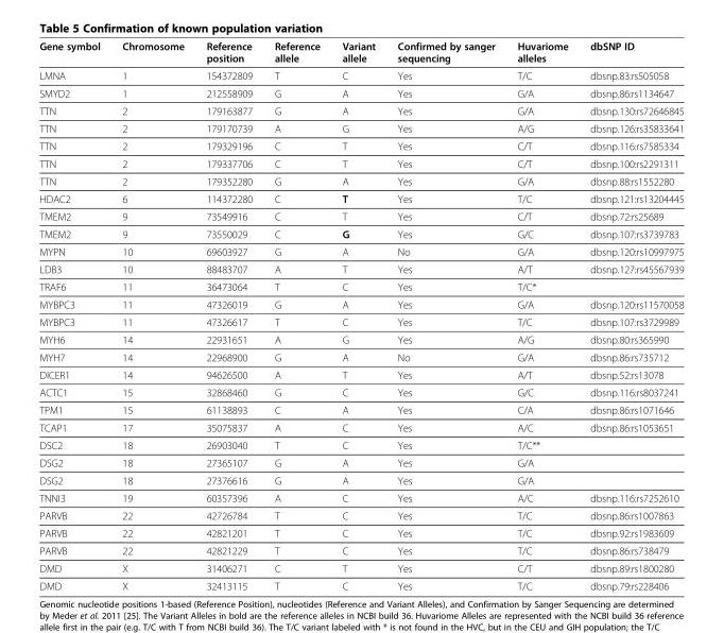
<table><thead><tr><td>Gene symbol</td><td>Chromosome</td><td>Reference position</td><td>Reference allele</td><td>Variant allele</td><td>Confirmed by sanger sequencing</td><td>Huvariome alleles</td><td>dbSNP ID</td></tr></thead><tbody><tr><td>LMNA</td><td>1</td><td>154372809</td><td>T</td><td>C</td><td>Yes</td><td>T/C</td><td>dbsnp.83:rs505058</td></tr><tr><td>SMYD2</td><td>1</td><td>212558909</td><td>G</td><td>A</td><td>Yes</td><td>G/A</td><td>dbsnp.86:rs1134647</td></tr><tr><td>TTN</td><td>2</td><td>179163877</td><td>G</td><td>A</td><td>Yes</td><td>G/A</td><td>dbsnp.130:rs72646845</td></tr><tr><td>TTN</td><td>2</td><td>179170739</td><td>A</td><td>G</td><td>Yes</td><td>A/G</td><td>dbsnp.126:rs35833641</td></tr><tr><td>TTN</td><td>2</td><td>179329196</td><td>C</td><td>T</td><td>Yes</td><td>C/T</td><td>dbsnp.116:rs7585334</td></tr><tr><td>TTN</td><td>2</td><td>179337706</td><td>C</td><td>T</td><td>Yes</td><td>C/T</td><td>dbsnp.100:rs2291311</td></tr><tr><td>TTN</td><td>2</td><td>179352280</td><td>G</td><td>A</td><td>Yes</td><td>G/A</td><td>dbsnp.88:rs1552280</td></tr><tr><td>HDAC2</td><td>6</td><td>114372280</td><td>C</td><td>T</td><td>Yes</td><td>T/C</td><td>dbsnp.121:rs13204445</td></tr><tr><td>TMEM2</td><td>9</td><td>73549916</td><td>C</td><td>T</td><td>Yes</td><td>C/T</td><td>dbsnp.72:rs25689</td></tr><tr><td>TMEM2</td><td>9</td><td>73550029</td><td>C</td><td>G</td><td>Yes</td><td>G/C</td><td>dbsnp.107:rs3739783</td></tr><tr><td>MYPN</td><td>10</td><td>69603927</td><td>G</td><td>A</td><td>No</td><td>G/A</td><td>dbsnp.120:rs10997975</td></tr><tr><td>LDB3</td><td>10</td><td>88483707</td><td>A</td><td>T</td><td>Yes</td><td>A/T</td><td>dbsnp.127:rs45567939</td></tr><tr><td>TRAF6</td><td>11</td><td>36473064</td><td>T</td><td>C</td><td>Yes</td><td>T/C*</td><td></td></tr><tr><td>MYBPC3</td><td>11</td><td>47326019</td><td>G</td><td>A</td><td>Yes</td><td>G/A</td><td>dbsnp.120:rs11570058</td></tr><tr><td>MYBPC3</td><td>11</td><td>47326617</td><td>T</td><td>C</td><td>Yes</td><td>T/C</td><td>dbsnp.107:rs3729989</td></tr><tr><td>MYH6</td><td>14</td><td>22931651</td><td>A</td><td>G</td><td>Yes</td><td>A/G</td><td>dbsnp.80:rs365990</td></tr><tr><td>MYH7</td><td>14</td><td>22968900</td><td>G</td><td>A</td><td>No</td><td>G/A</td><td>dbsnp.86:rs735712</td></tr><tr><td>DICER1</td><td>14</td><td>94626500</td><td>A</td><td>T</td><td>Yes</td><td>A/T</td><td>dbsnp.52:rs13078</td></tr><tr><td>ACTC1</td><td>15</td><td>32868460</td><td>G</td><td>C</td><td>Yes</td><td>G/C</td><td>dbsnp.116:rs8037241</td></tr><tr><td>TPM1</td><td>15</td><td>61138893</td><td>C</td><td>A</td><td>Yes</td><td>C/A</td><td>dbsnp.86:rs1071646</td></tr><tr><td>TCAP1</td><td>17</td><td>35075837</td><td>A</td><td>C</td><td>Yes</td><td>A/C</td><td>dbsnp.86:rs1053651</td></tr><tr><td>DSC2</td><td>18</td><td>26903040</td><td>T</td><td>C</td><td>Yes</td><td>T/C**</td><td></td></tr><tr><td>DSG2</td><td>18</td><td>27365107</td><td>G</td><td>A</td><td>Yes</td><td>G/A</td><td></td></tr><tr><td>DSG2</td><td>18</td><td>27376616</td><td>G</td><td>A</td><td>Yes</td><td>G/A</td><td></td></tr><tr><td>TNNI3</td><td>19</td><td>60357396</td><td>A</td><td>C</td><td>Yes</td><td>A/C</td><td>dbsnp.116:rs7252610</td></tr><tr><td>PARVB</td><td>22</td><td>42726784</td><td>T</td><td>C</td><td>Yes</td><td>T/C</td><td>dbsnp.86:rs1007863</td></tr><tr><td>PARVB</td><td>22</td><td>42821201</td><td>T</td><td>C</td><td>Yes</td><td>T/C</td><td>dbsnp.92:rs1983609</td></tr><tr><td>PARVB</td><td>22</td><td>42821229</td><td>T</td><td>C</td><td>Yes</td><td>T/C</td><td>dbsnp.86:rs738479</td></tr><tr><td>DMD</td><td>X</td><td>31406271</td><td>C</td><td>T</td><td>Yes</td><td>C/T</td><td>dbsnp.89:rs1800280</td></tr><tr><td>DMD</td><td>X</td><td>32413115</td><td>T</td><td>C</td><td>Yes</td><td>T/C</td><td>dbsnp.79:rs228406</td></tr></tbody></table>